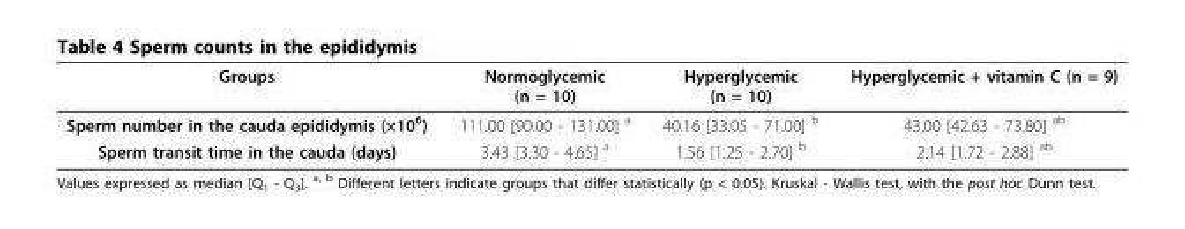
<table><thead><tr><td>Groups</td><td>Normoglycemic (n = 10)</td><td>Hyperglycemic (n = 10)</td><td>Hyperglycemic + vitamin C (n = 9)</td></tr></thead><tbody><tr><td>Sperm number in the cauda epididymis (×10<sup>6</sup>)</td><td>111.00 [90.00 - 131.00] <sup>a</sup></td><td>40.16 [33.05 - 71.00] <sup>b</sup></td><td>43.00 [42.63 - 73.80] <sup>ab</sup></td></tr><tr><td>Sperm transit time in the cauda (days)</td><td>3.43 [3.30 - 4.65] <sup>a</sup></td><td>1.56 [1.25 - 2.70] <sup>b</sup></td><td>2.14 [1.72 - 2.88] <sup>ab</sup></td></tr></tbody></table>